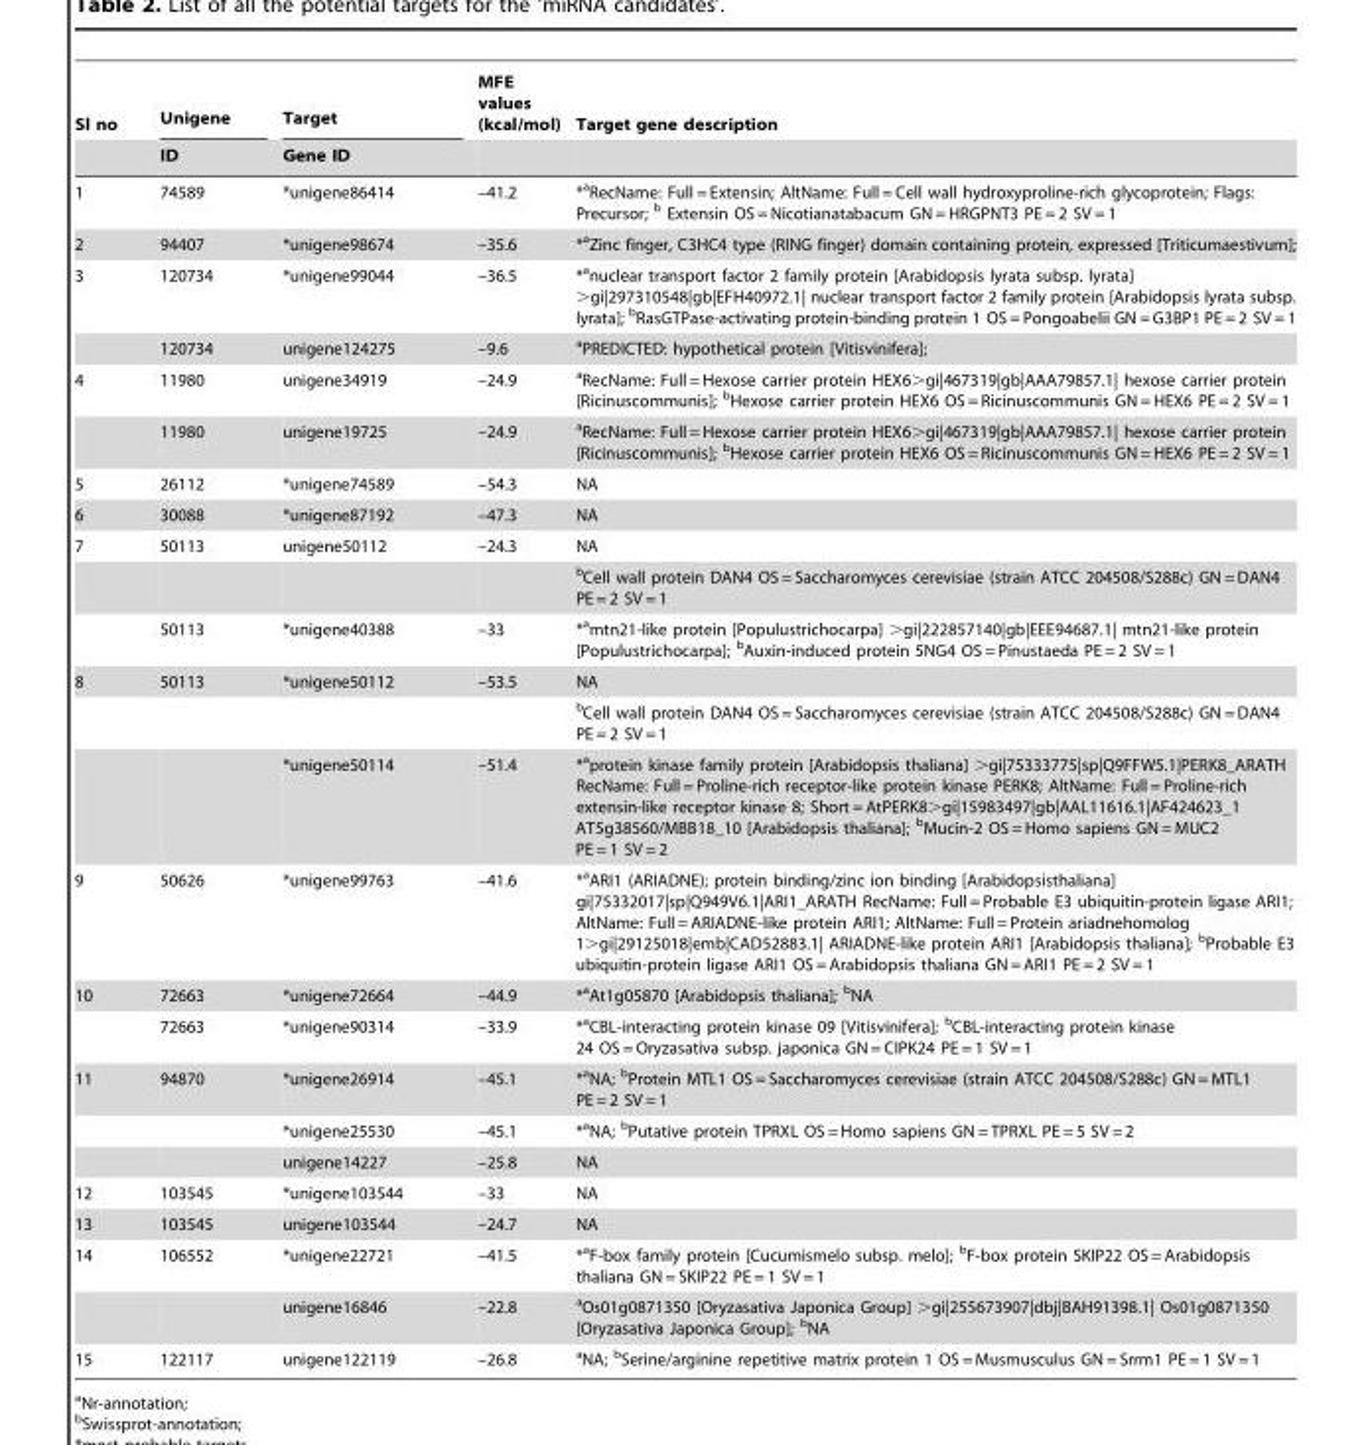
<table><thead><tr><td rowspan="2">Sl no</td><td rowspan="2">Unigene ID</td><td rowspan="2">Target Gene ID</td><td rowspan="2">MFE values (kcal/mol)</td><td rowspan="2">Target gene description</td></tr><tr></tr></thead><tbody><tr><td>1</td><td>74589</td><td>*unigene86414</td><td>–41.2</td><td>*aRecName: Full = Extensin; AltName: Full = Cell wall hydroxyproline-rich glycoprotein; Flags: Precursor; b Extensin OS = Nicotianatabacum GN = HRGPNT3 PE = 2 SV = 1</td></tr><tr><td>2</td><td>94407</td><td>*unigene98674</td><td>–35.6</td><td>*aZinc finger, C3HC4 type (RING finger) domain containing protein, expressed [Triticumaestivum];</td></tr><tr><td rowspan="2">3</td><td>120734</td><td>*unigene99044</td><td>–36.5</td><td>*anuclear transport factor 2 family protein [Arabidopsis lyrata subsp. lyrata] &gt;gi|297310548|gb|EFH40972.1| nuclear transport factor 2 family protein [Arabidopsis lyrata subsp. lyrata]; bRasGTPase-activating protein-binding protein 1 OS = Pongoabelii GN = G3BP1 PE = 2 SV = 1</td></tr><tr><td>120734</td><td>unigene124275</td><td>–9.6</td><td>aPREDICTED: hypothetical protein [Vitisvinifera];</td></tr><tr><td rowspan="2">4</td><td>11980</td><td>unigene34919</td><td>–24.9</td><td>aRecName: Full = Hexose carrier protein HEX6&gt;gi|467319|gb|AAA79857.1| hexose carrier protein [Ricinuscommunis]; bHexose carrier protein HEX6 OS = Ricinuscommunis GN = HEX6 PE = 2 SV = 1</td></tr><tr><td>11980</td><td>unigene19725</td><td>–24.9</td><td>aRecName: Full = Hexose carrier protein HEX6&gt;gi|467319|gb|AAA79857.1| hexose carrier protein [Ricinuscommunis]; bHexose carrier protein HEX6 OS = Ricinuscommunis GN = HEX6 PE = 2 SV = 1</td></tr><tr><td>5</td><td>26112</td><td>*unigene74589</td><td>–54.3</td><td>NA</td></tr><tr><td>6</td><td>30088</td><td>*unigene87192</td><td>–47.3</td><td>NA</td></tr><tr><td rowspan="3">7</td><td>50113</td><td>unigene50112</td><td>–24.3</td><td>NA</td></tr><tr><td></td><td></td><td></td><td>bCell wall protein DAN4 OS = Saccharomyces cerevisiae (strain ATCC 204508/S288c) GN = DAN4 PE = 2 SV = 1</td></tr><tr><td>50113</td><td>*unigene40388</td><td>–33</td><td>*amtn21-like protein [Populustrichocarpa] &gt;gi|222857140|gb|EEE94687.1| mtn21-like protein [Populustrichocarpa]; bAuxin-induced protein 5NG4 OS = Pinustaeda PE = 2 SV = 1</td></tr><tr><td rowspan="3">8</td><td>50113</td><td>*unigene50112</td><td>–53.5</td><td>NA</td></tr><tr><td></td><td></td><td></td><td>bCell wall protein DAN4 OS = Saccharomyces cerevisiae (strain ATCC 204508/S288c) GN = DAN4 PE = 2 SV = 1</td></tr><tr><td></td><td>*unigene50114</td><td>–51.4</td><td>*aprotein kinase family protein [Arabidopsis thaliana] &gt;gi|75333775|sp|Q9FFW5.1|PERK8_ARATH RecName: Full = Proline-rich receptor-like protein kinase PERK8; AltName: Full = Proline-rich extensin-like receptor kinase 8; Short = AtPERK8&gt;gi|15983497|gb|AAL11616.1|AF424623_1 AT5g38560/MBB18_10 [Arabidopsis thaliana]; bMucin-2 OS = Homo sapiens GN = MUC2 PE = 1 SV = 2</td></tr><tr><td>9</td><td>50626</td><td>*unigene99763</td><td>–41.6</td><td>*aARI1 (ARIADNE); protein binding/zinc ion binding [Arabidopsisthaliana] gi|75332017|sp|Q949V6.1|ARI1_ARATH RecName: Full = Probable E3 ubiquitin-protein ligase ARI1; AltName: Full = ARIADNE-like protein ARI1; AltName: Full = Protein ariadnehomolog 1&gt;gi|29125018|emb|CAD52883.1| ARIADNE-like protein ARI1 [Arabidopsis thaliana]; bProbable E3 ubiquitin-protein ligase ARI1 OS = Arabidopsis thaliana GN = ARI1 PE = 2 SV = 1</td></tr><tr><td rowspan="2">10</td><td>72663</td><td>*unigene72664</td><td>–44.9</td><td>*aAt1g05870 [Arabidopsis thaliana]; bNA</td></tr><tr><td>72663</td><td>*unigene90314</td><td>–33.9</td><td>*aCBL-interacting protein kinase 09 [Vitisvinifera]; bCBL-interacting protein kinase 24 OS = Oryzasativa subsp. japonica GN = CIPK24 PE = 1 SV = 1</td></tr><tr><td rowspan="3">11</td><td>94870</td><td>*unigene26914</td><td>–45.1</td><td>*aNA; bProtein MTL1 OS = Saccharomyces cerevisiae (strain ATCC 204508/S288c) GN = MTL1 PE = 2 SV = 1</td></tr><tr><td></td><td>*unigene25530</td><td>–45.1</td><td>*aNA; bPutative protein TPRXL OS = Homo sapiens GN = TPRXL PE = 5 SV = 2</td></tr><tr><td></td><td>unigene14227</td><td>–25.8</td><td>NA</td></tr><tr><td>12</td><td>103545</td><td>*unigene103544</td><td>–33</td><td>NA</td></tr><tr><td>13</td><td>103545</td><td>unigene103544</td><td>–24.7</td><td>NA</td></tr><tr><td rowspan="2">14</td><td>106552</td><td>*unigene22721</td><td>–41.5</td><td>*aF-box family protein [Cucumismelo subsp. melo]; bF-box protein SKIP22 OS = Arabidopsis thaliana GN = SKIP22 PE = 1 SV = 1</td></tr><tr><td></td><td>unigene16846</td><td>–22.8</td><td>aOs01g0871350 [Oryzasativa Japonica Group] &gt;gi|255673907|dbj|BAH91398.1| Os01g0871350 [Oryzasativa Japonica Group]; bNA</td></tr><tr><td>15</td><td>122117</td><td>unigene122119</td><td>–26.8</td><td>aNA; bSerine/arginine repetitive matrix protein 1 OS = Musmusculus GN = Srrm1 PE = 1 SV = 1</td></tr></tbody></table>